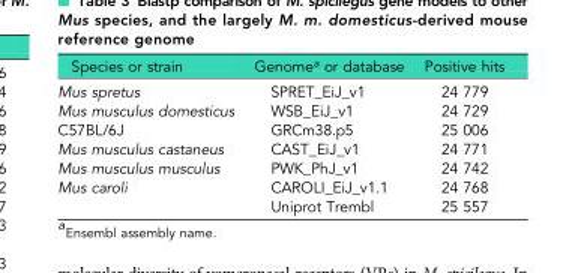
<table><thead><tr><td>Species or strain</td><td>Genome<sup>a</sup> or database</td><td>Positive hits</td></tr></thead><tbody><tr><td>Mus spretus</td><td>SPRET_EiJ_v1</td><td>24 779</td></tr><tr><td>Mus musculus domesticus</td><td>WSB_EiJ_v1</td><td>24 729</td></tr><tr><td>C57BL/6J</td><td>GRCm38.p5</td><td>25 006</td></tr><tr><td>Mus musculus castaneus</td><td>CAST_EiJ_v1</td><td>24 771</td></tr><tr><td>Mus musculus musculus</td><td>PWK_PhJ_v1</td><td>24 742</td></tr><tr><td rowspan="2">Mus caroli</td><td>CAROLI_EiJ_v1.1</td><td>24 768</td></tr><tr><td>Uniprot Trembl</td><td>25 557</td></tr></tbody></table>